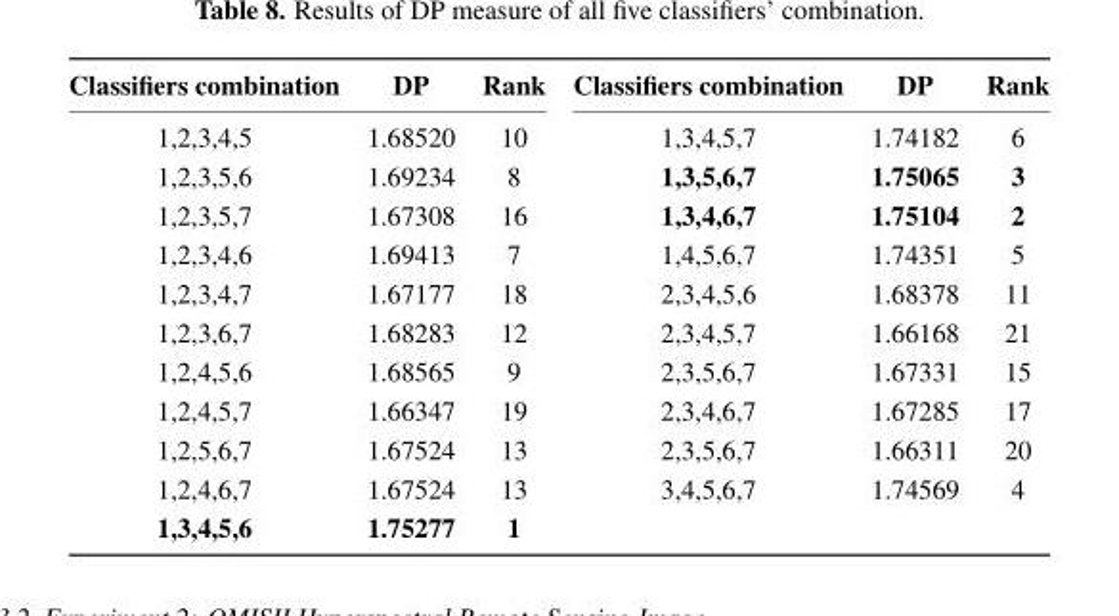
<table><thead><tr><td>Classifiers combination</td><td>DP</td><td>Rank</td><td>Classifiers combination</td><td>DP</td><td>Rank</td></tr></thead><tbody><tr><td>1,2,3,4,5</td><td>1.68520</td><td>10</td><td>1,3,4,5,7</td><td>1.74182</td><td>6</td></tr><tr><td>1,2,3,5,6</td><td>1.69234</td><td>8</td><td>1,3,5,6,7</td><td>1.75065</td><td>3</td></tr><tr><td>1,2,3,5,7</td><td>1.67308</td><td>16</td><td>1,3,4,6,7</td><td>1.75104</td><td>2</td></tr><tr><td>1,2,3,4,6</td><td>1.69413</td><td>7</td><td>1,4,5,6,7</td><td>1.74351</td><td>5</td></tr><tr><td>1,2,3,4,7</td><td>1.67177</td><td>18</td><td>2,3,4,5,6</td><td>1.68378</td><td>11</td></tr><tr><td>1,2,3,6,7</td><td>1.68283</td><td>12</td><td>2,3,4,5,7</td><td>1.66168</td><td>21</td></tr><tr><td>1,2,4,5,6</td><td>1.68565</td><td>9</td><td>2,3,5,6,7</td><td>1.67331</td><td>15</td></tr><tr><td>1,2,4,5,7</td><td>1.66347</td><td>19</td><td>2,3,4,6,7</td><td>1.67285</td><td>17</td></tr><tr><td>1,2,5,6,7</td><td>1.67524</td><td>13</td><td>2,3,5,6,7</td><td>1.66311</td><td>20</td></tr><tr><td>1,2,4,6,7</td><td>1.67524</td><td>13</td><td>3,4,5,6,7</td><td>1.74569</td><td>4</td></tr><tr><td>1,3,4,5,6</td><td>1.75277</td><td>1</td><td></td><td></td><td></td></tr></tbody></table>